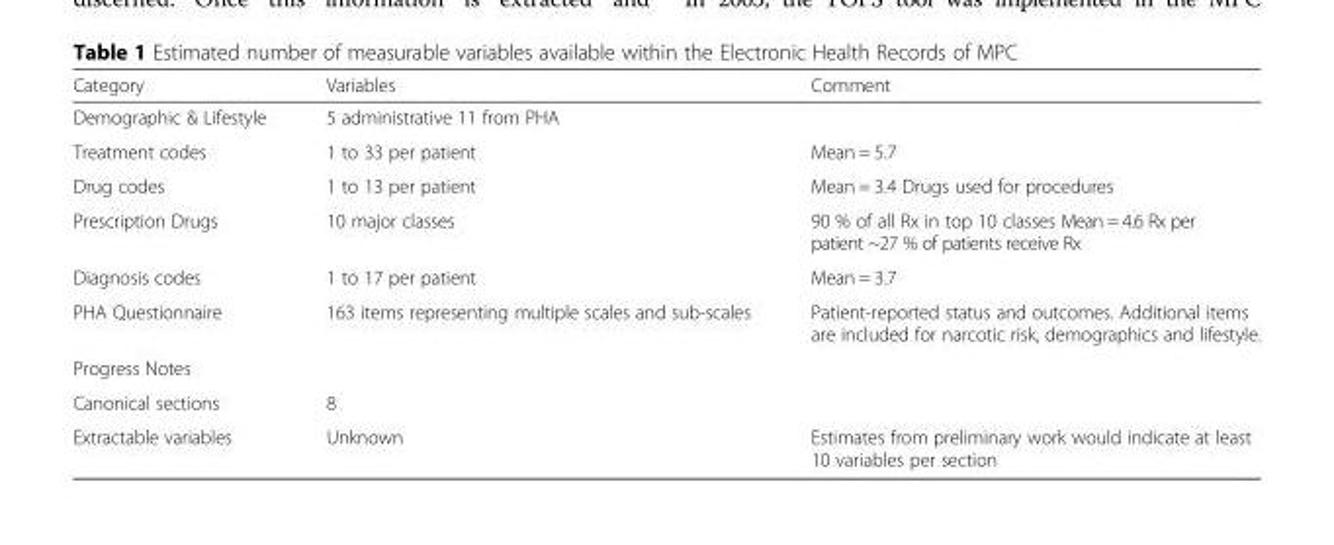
<table><thead><tr><td>Category</td><td>Variables</td><td>Comment</td></tr></thead><tbody><tr><td>Demographic &amp; Lifestyle</td><td>5 administrative 11 from PHA</td><td></td></tr><tr><td>Treatment codes</td><td>1 to 33 per patient</td><td>Mean = 5.7</td></tr><tr><td>Drug codes</td><td>1 to 13 per patient</td><td>Mean = 3.4 Drugs used for procedures</td></tr><tr><td>Prescription Drugs</td><td>10 major classes</td><td>90 % of all Rx in top 10 classes Mean = 4.6 Rx per patient ~27 % of patients receive Rx</td></tr><tr><td>Diagnosis codes</td><td>1 to 17 per patient</td><td>Mean = 3.7</td></tr><tr><td>PHA Questionnaire</td><td>163 items representing multiple scales and sub-scales</td><td>Patient-reported status and outcomes. Additional items are included for narcotic risk, demographics and lifestyle.</td></tr><tr><td colspan="3">Progress Notes</td></tr><tr><td>Canonical sections</td><td>8</td><td></td></tr><tr><td>Extractable variables</td><td>Unknown</td><td>Estimates from preliminary work would indicate at least 10 variables per section</td></tr></tbody></table>